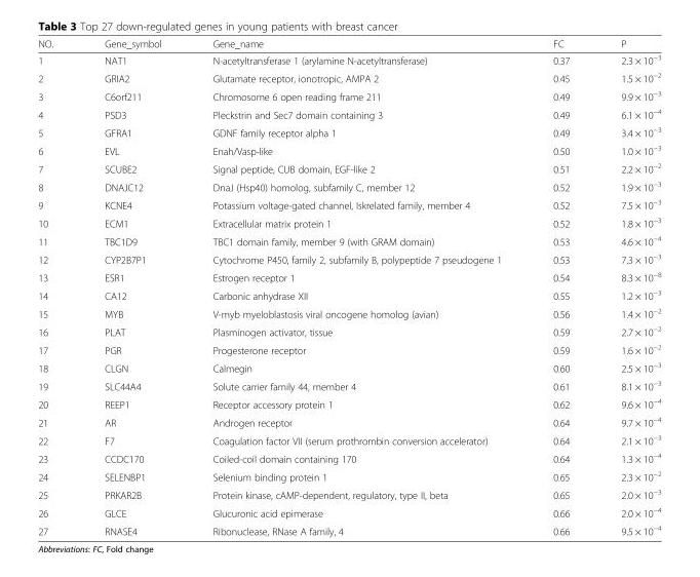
<table><thead><tr><td>NO.</td><td>Gene_symbol</td><td>Gene_name</td><td>FC</td><td>P</td></tr></thead><tbody><tr><td>1</td><td>NAT1</td><td>N-acetyltransferase 1 (arylamine N-acetyltransferase)</td><td>0.37</td><td>2.3 × 10<sup>−3</sup></td></tr><tr><td>2</td><td>GRIA2</td><td>Glutamate receptor, ionotropic, AMPA 2</td><td>0.45</td><td>1.5 × 10<sup>−2</sup></td></tr><tr><td>3</td><td>C6orf211</td><td>Chromosome 6 open reading frame 211</td><td>0.49</td><td>9.9 × 10<sup>−3</sup></td></tr><tr><td>4</td><td>PSD3</td><td>Pleckstrin and Sec7 domain containing 3</td><td>0.49</td><td>6.1 × 10<sup>−4</sup></td></tr><tr><td>5</td><td>GFRA1</td><td>GDNF family receptor alpha 1</td><td>0.49</td><td>3.4 × 10<sup>−3</sup></td></tr><tr><td>6</td><td>EVL</td><td>Enah/Vasp-like</td><td>0.50</td><td>1.0 × 10<sup>−3</sup></td></tr><tr><td>7</td><td>SCUBE2</td><td>Signal peptide, CUB domain, EGF-like 2</td><td>0.51</td><td>2.2 × 10<sup>−2</sup></td></tr><tr><td>8</td><td>DNAJC12</td><td>DnaJ (Hsp40) homolog, subfamily C, member 12</td><td>0.52</td><td>1.9 × 10<sup>−3</sup></td></tr><tr><td>9</td><td>KCNE4</td><td>Potassium voltage-gated channel, Iskrelated family, member 4</td><td>0.52</td><td>7.5 × 10<sup>−3</sup></td></tr><tr><td>10</td><td>ECM1</td><td>Extracellular matrix protein 1</td><td>0.52</td><td>1.8 × 10<sup>−3</sup></td></tr><tr><td>11</td><td>TBC1D9</td><td>TBC1 domain family, member 9 (with GRAM domain)</td><td>0.53</td><td>4.6 × 10<sup>−4</sup></td></tr><tr><td>12</td><td>CYP2B7P1</td><td>Cytochrome P450, family 2, subfamily B, polypeptide 7 pseudogene 1</td><td>0.53</td><td>7.3 × 10<sup>−3</sup></td></tr><tr><td>13</td><td>ESR1</td><td>Estrogen receptor 1</td><td>0.54</td><td>8.3 × 10<sup>−8</sup></td></tr><tr><td>14</td><td>CA12</td><td>Carbonic anhydrase XII</td><td>0.55</td><td>1.2 × 10<sup>−3</sup></td></tr><tr><td>15</td><td>MYB</td><td>V-myb myeloblastosis viral oncogene homolog (avian)</td><td>0.56</td><td>1.4 × 10<sup>−2</sup></td></tr><tr><td>16</td><td>PLAT</td><td>Plasminogen activator, tissue</td><td>0.59</td><td>2.7 × 10<sup>−2</sup></td></tr><tr><td>17</td><td>PGR</td><td>Progesterone receptor</td><td>0.59</td><td>1.6 × 10<sup>−2</sup></td></tr><tr><td>18</td><td>CLGN</td><td>Calmegin</td><td>0.60</td><td>2.5 × 10<sup>−3</sup></td></tr><tr><td>19</td><td>SLC44A4</td><td>Solute carrier family 44, member 4</td><td>0.61</td><td>8.1 × 10<sup>−3</sup></td></tr><tr><td>20</td><td>REEP1</td><td>Receptor accessory protein 1</td><td>0.62</td><td>9.6 × 10<sup>−4</sup></td></tr><tr><td>21</td><td>AR</td><td>Androgen receptor</td><td>0.64</td><td>9.7 × 10<sup>−4</sup></td></tr><tr><td>22</td><td>F7</td><td>Coagulation factor VII (serum prothrombin conversion accelerator)</td><td>0.64</td><td>2.1 × 10<sup>−3</sup></td></tr><tr><td>23</td><td>CCDC170</td><td>Coiled-coil domain containing 170</td><td>0.64</td><td>1.3 × 10<sup>−4</sup></td></tr><tr><td>24</td><td>SELENBP1</td><td>Selenium binding protein 1</td><td>0.65</td><td>2.3 × 10<sup>−2</sup></td></tr><tr><td>25</td><td>PRKAR2B</td><td>Protein kinase, cAMP-dependent, regulatory, type II, beta</td><td>0.65</td><td>2.0 × 10<sup>−3</sup></td></tr><tr><td>26</td><td>GLCE</td><td>Glucuronic acid epimerase</td><td>0.66</td><td>2.0 × 10<sup>−4</sup></td></tr><tr><td>27</td><td>RNASE4</td><td>Ribonuclease, RNase A family, 4</td><td>0.66</td><td>9.5 × 10<sup>−4</sup></td></tr></tbody></table>